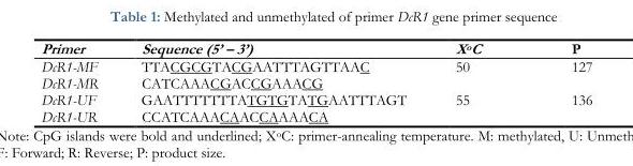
<table><thead><tr><td>Primer</td><td>Sequence (5’ – 3’)</td><td>X°C</td><td>P</td></tr></thead><tbody><tr><td>DcR1-MF</td><td>TTACGCGTACGAATTTAGTTAAC</td><td rowspan="2">50</td><td rowspan="2">127</td></tr><tr><td>DcR1-MR</td><td>CATCAAACGACCGAAACG</td></tr><tr><td>DcR1-UF</td><td>GAATTTTTTTATGTGTATGAATTTAGT</td><td rowspan="2">55</td><td rowspan="2">136</td></tr><tr><td>DcR1-UR</td><td>CCATCAAACAACCAAAACA</td></tr></tbody></table>